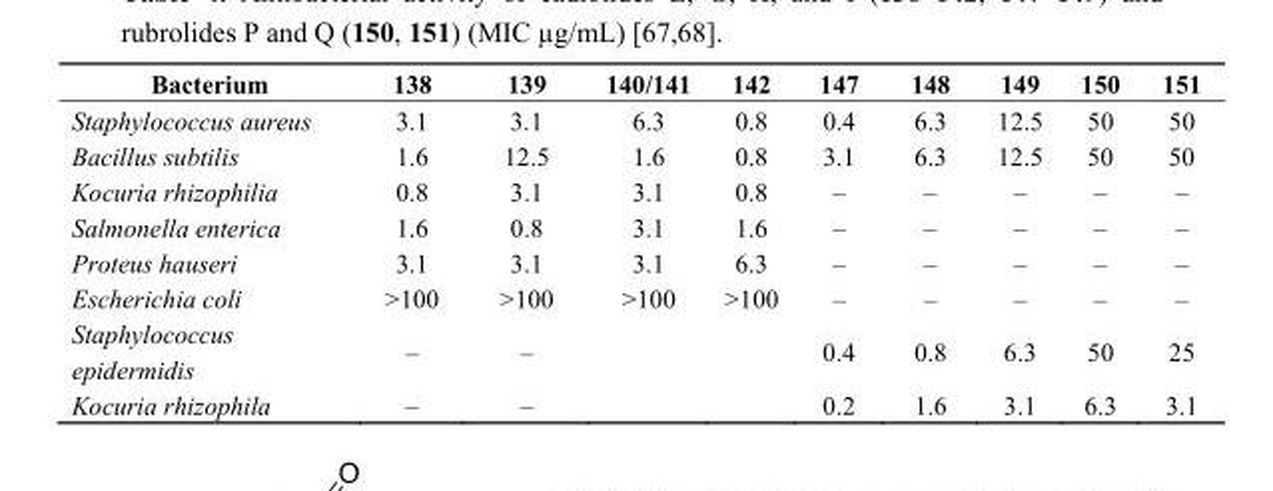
<table><thead><tr><td>Bacterium</td><td>138</td><td>139</td><td>140/141</td><td>142</td><td>147</td><td>148</td><td>149</td><td>150</td><td>151</td></tr></thead><tbody><tr><td>Staphylococcus aureus</td><td>3.1</td><td>3.1</td><td>6.3</td><td>0.8</td><td>0.4</td><td>6.3</td><td>12.5</td><td>50</td><td>50</td></tr><tr><td>Bacillus subtilis</td><td>1.6</td><td>12.5</td><td>1.6</td><td>0.8</td><td>3.1</td><td>6.3</td><td>12.5</td><td>50</td><td>50</td></tr><tr><td>Kocuria rhizophilia</td><td>0.8</td><td>3.1</td><td>3.1</td><td>0.8</td><td>–</td><td>–</td><td>–</td><td>–</td><td>–</td></tr><tr><td>Salmonella enterica</td><td>1.6</td><td>0.8</td><td>3.1</td><td>1.6</td><td>–</td><td>–</td><td>–</td><td>–</td><td>–</td></tr><tr><td>Proteus hauseri</td><td>3.1</td><td>3.1</td><td>3.1</td><td>6.3</td><td>–</td><td>–</td><td>–</td><td>–</td><td>–</td></tr><tr><td>Escherichia coli</td><td>&gt;100</td><td>&gt;100</td><td>&gt;100</td><td>&gt;100</td><td>–</td><td>–</td><td>–</td><td>–</td><td>–</td></tr><tr><td>Staphylococcus epidermidis</td><td>–</td><td>–</td><td></td><td></td><td>0.4</td><td>0.8</td><td>6.3</td><td>50</td><td>25</td></tr><tr><td>Kocuria rhizophila</td><td>–</td><td>–</td><td></td><td></td><td>0.2</td><td>1.6</td><td>3.1</td><td>6.3</td><td>3.1</td></tr></tbody></table>